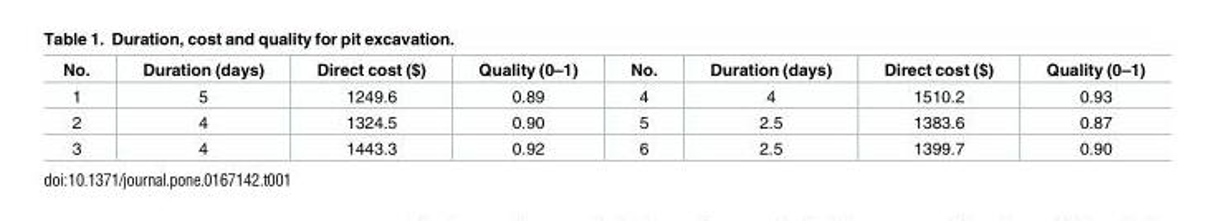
<table><thead><tr><td>No.</td><td>Duration (days)</td><td>Direct cost ($)</td><td>Quality (0–1)</td><td>No.</td><td>Duration (days)</td><td>Direct cost ($)</td><td>Quality (0–1)</td></tr></thead><tbody><tr><td>1</td><td>5</td><td>1249.6</td><td>0.89</td><td>4</td><td>4</td><td>1510.2</td><td>0.93</td></tr><tr><td>2</td><td>4</td><td>1324.5</td><td>0.90</td><td>5</td><td>2.5</td><td>1383.6</td><td>0.87</td></tr><tr><td>3</td><td>4</td><td>1443.3</td><td>0.92</td><td>6</td><td>2.5</td><td>1399.7</td><td>0.90</td></tr></tbody></table>